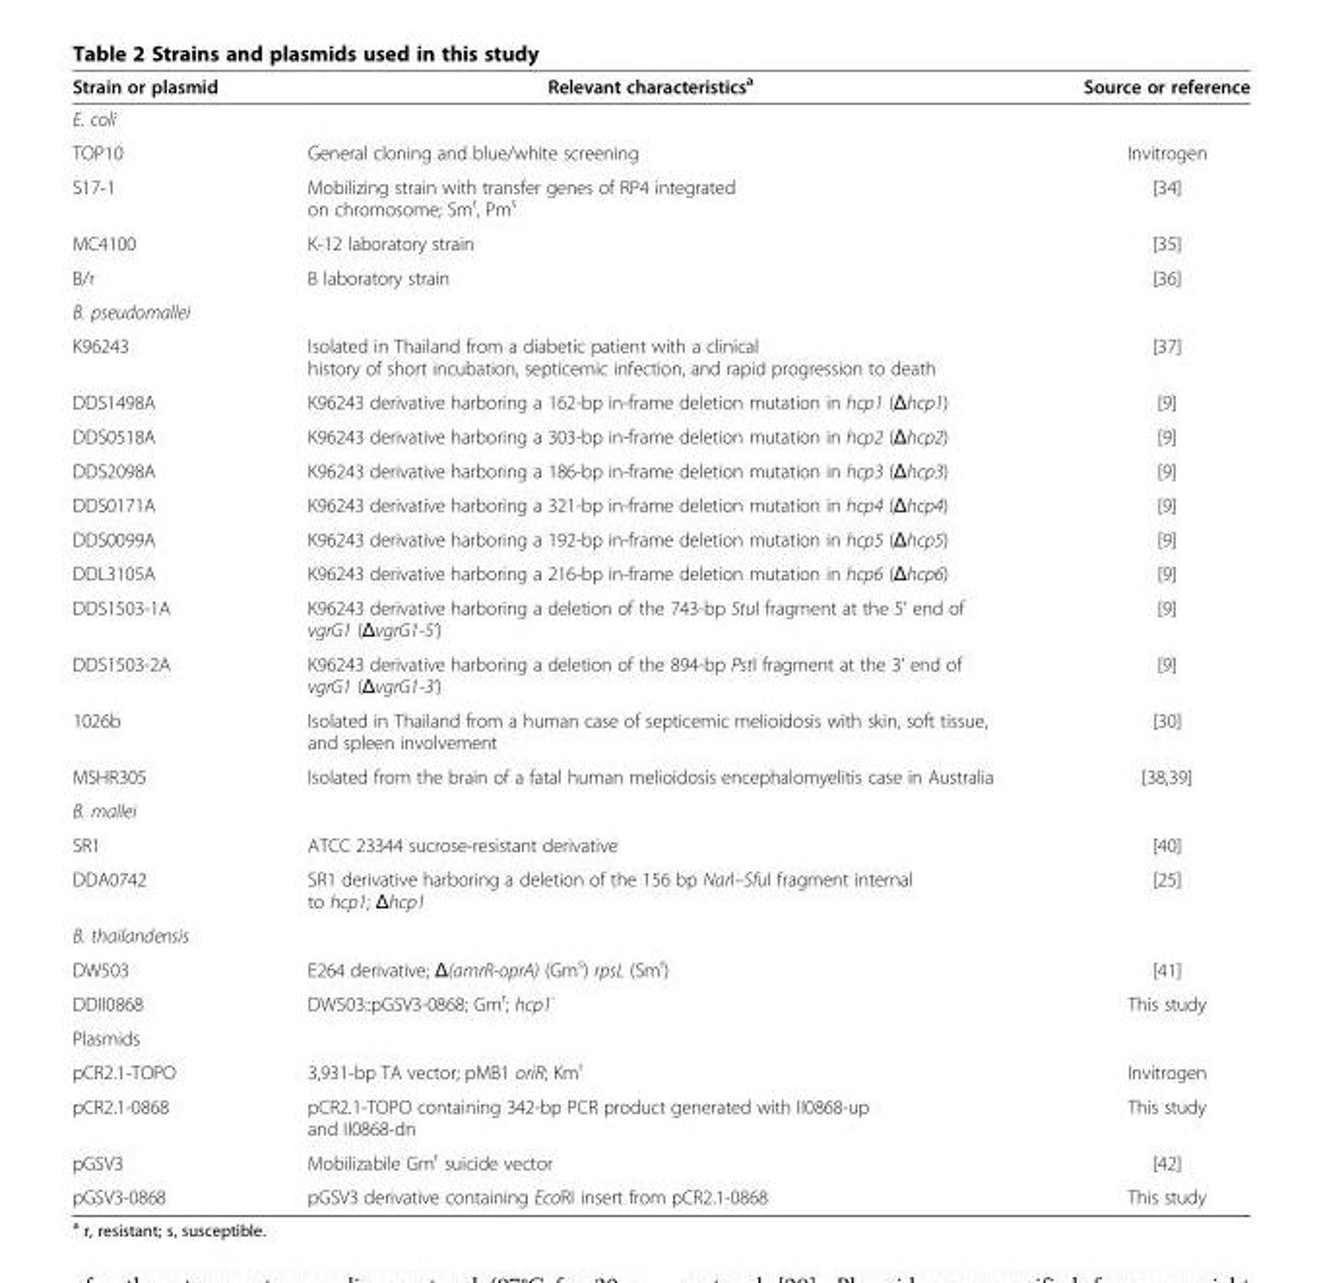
<table><thead><tr><td>Strain or plasmid</td><td>Relevant characteristics<sup>a</sup></td><td>Source or reference</td></tr></thead><tbody><tr><td colspan="3">E. coli</td></tr><tr><td>TOP10</td><td>General cloning and blue/white screening</td><td>Invitrogen</td></tr><tr><td>S17-1</td><td>Mobilizing strain with transfer genes of RP4 integrated on chromosome; Sm<sup>r</sup>, Pm<sup>s</sup></td><td>[34]</td></tr><tr><td>MC4100</td><td>K-12 laboratory strain</td><td>[35]</td></tr><tr><td>B/r</td><td>B laboratory strain</td><td>[36]</td></tr><tr><td colspan="3">B. pseudomallei</td></tr><tr><td>K96243</td><td>Isolated in Thailand from a diabetic patient with a clinical history of short incubation, septicemic infection, and rapid progression to death</td><td>[37]</td></tr><tr><td>DDS1498A</td><td>K96243 derivative harboring a 162-bp in-frame deletion mutation in hcp1 (Δhcp1)</td><td>[9]</td></tr><tr><td>DDS0518A</td><td>K96243 derivative harboring a 303-bp in-frame deletion mutation in hcp2 (Δhcp2)</td><td>[9]</td></tr><tr><td>DDS2098A</td><td>K96243 derivative harboring a 186-bp in-frame deletion mutation in hcp3 (Δhcp3)</td><td>[9]</td></tr><tr><td>DDS0171A</td><td>K96243 derivative harboring a 321-bp in-frame deletion mutation in hcp4 (Δhcp4)</td><td>[9]</td></tr><tr><td>DDS0099A</td><td>K96243 derivative harboring a 192-bp in-frame deletion mutation in hcp5 (Δhcp5)</td><td>[9]</td></tr><tr><td>DDL3105A</td><td>K96243 derivative harboring a 216-bp in-frame deletion mutation in hcp6 (Δhcp6)</td><td>[9]</td></tr><tr><td>DDS1503-1A</td><td>K96243 derivative harboring a deletion of the 743-bp StuI fragment at the 5’ end of vgrG1 (ΔvgrG1-5’)</td><td>[9]</td></tr><tr><td>DDS1503-2A</td><td>K96243 derivative harboring a deletion of the 894-bp PstI fragment at the 3’ end of vgrG1 (ΔvgrG1-3’)</td><td>[9]</td></tr><tr><td>1026b</td><td>Isolated in Thailand from a human case of septicemic melioidosis with skin, soft tissue, and spleen involvement</td><td>[30]</td></tr><tr><td>MSHR305</td><td>Isolated from the brain of a fatal human melioidosis encephalomyelitis case in Australia</td><td>[38,39]</td></tr><tr><td colspan="3">B. mallei</td></tr><tr><td>SR1</td><td>ATCC 23344 sucrose-resistant derivative</td><td>[40]</td></tr><tr><td>DDA0742</td><td>SR1 derivative harboring a deletion of the 156 bp NarI–SfuI fragment internal to hcp1; Δhcp1</td><td>[25]</td></tr><tr><td colspan="3">B. thailandensis</td></tr><tr><td>DW503</td><td>E264 derivative; Δ(amrR-oprA) (Gm<sup>s</sup>) rpsL (Sm<sup>r</sup>)</td><td>[41]</td></tr><tr><td>DDII0868</td><td>DW503::pGSV3-0868; Gm<sup>r</sup>; hcp1<sup>-</sup></td><td>This study</td></tr><tr><td colspan="3">Plasmids</td></tr><tr><td>pCR2.1-TOPO</td><td>3,931-bp TA vector; pMB1 oriR; Km<sup>r</sup></td><td>Invitrogen</td></tr><tr><td>pCR2.1-0868</td><td>pCR2.1-TOPO containing 342-bp PCR product generated with II0868-up and II0868-dn</td><td>This study</td></tr><tr><td>pGSV3</td><td>Mobilizabile Gm<sup>r</sup> suicide vector</td><td>[42]</td></tr><tr><td>pGSV3-0868</td><td>pGSV3 derivative containing EcoRI insert from pCR2.1-0868</td><td>This study</td></tr></tbody></table>